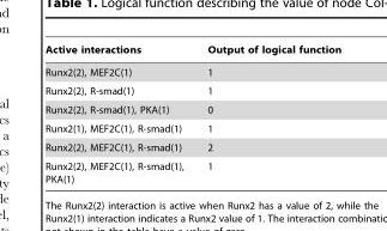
<table><thead><tr><td>Active interactions</td><td>Output of logical function</td></tr></thead><tbody><tr><td>Runx2(2), MEF2C(1)</td><td>1</td></tr><tr><td>Runx2(2), R-smad(1)</td><td>1</td></tr><tr><td>Runx2(2), R-smad(1), PKA(1)</td><td>0</td></tr><tr><td>Runx2(1), MEF2C(1), R-smad(1)</td><td>1</td></tr><tr><td>Runx2(2), MEF2C(1), R-smad(1)</td><td>2</td></tr><tr><td>Runx2(2), MEF2C(1), R-smad(1), PKA(1)</td><td>1</td></tr></tbody></table>